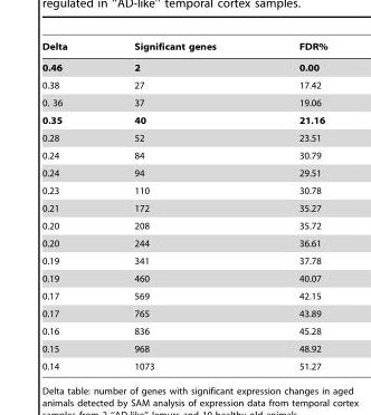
<table><thead><tr><td>Delta</td><td>Significant genes</td><td>FDR%</td></tr></thead><tbody><tr><td>0.46</td><td>2</td><td>0.00</td></tr><tr><td>0.38</td><td>27</td><td>17.42</td></tr><tr><td>0. 36</td><td>37</td><td>19.06</td></tr><tr><td>0.35</td><td>40</td><td>21.16</td></tr><tr><td>0.28</td><td>52</td><td>23.51</td></tr><tr><td>0.24</td><td>84</td><td>30.79</td></tr><tr><td>0.24</td><td>94</td><td>29.51</td></tr><tr><td>0.23</td><td>110</td><td>30.78</td></tr><tr><td>0.21</td><td>172</td><td>35.27</td></tr><tr><td>0.20</td><td>208</td><td>35.72</td></tr><tr><td>0.20</td><td>244</td><td>36.61</td></tr><tr><td>0.19</td><td>341</td><td>37.78</td></tr><tr><td>0.19</td><td>460</td><td>40.07</td></tr><tr><td>0.17</td><td>569</td><td>42.15</td></tr><tr><td>0.17</td><td>765</td><td>43.89</td></tr><tr><td>0.16</td><td>836</td><td>45.28</td></tr><tr><td>0.15</td><td>968</td><td>48.92</td></tr><tr><td>0.14</td><td>1073</td><td>51.27</td></tr></tbody></table>